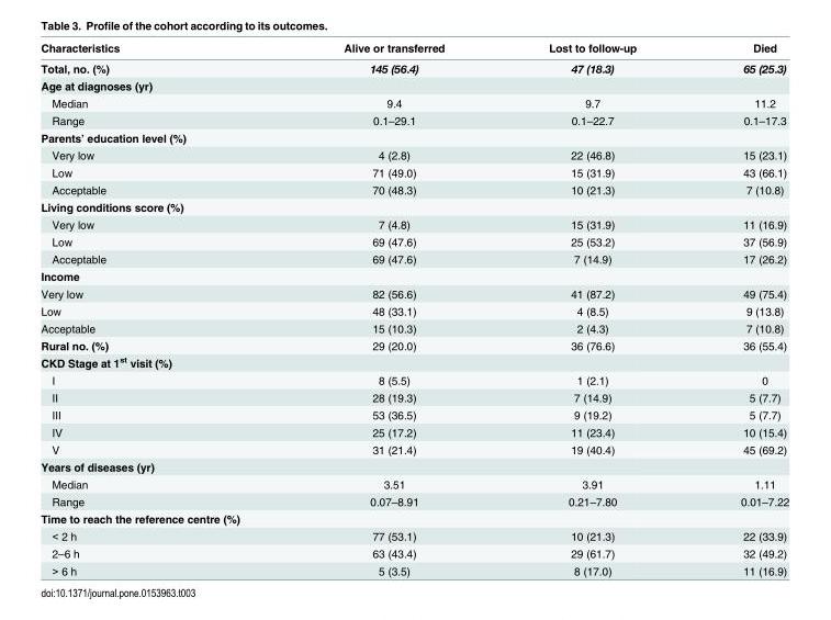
<table><thead><tr><td>Characteristics</td><td>Alive or transferred</td><td>Lost to follow-up</td><td>Died</td></tr></thead><tbody><tr><td>Total, no. (%)</td><td>145 (56.4)</td><td>47 (18.3)</td><td>65 (25.3)</td></tr><tr><td colspan="4">Age at diagnoses (yr)</td></tr><tr><td>Median</td><td>9.4</td><td>9.7</td><td>11.2</td></tr><tr><td>Range</td><td>0.1–29.1</td><td>0.1–22.7</td><td>0.1–17.3</td></tr><tr><td colspan="4">Parents’ education level (%)</td></tr><tr><td>Very low</td><td>4 (2.8)</td><td>22 (46.8)</td><td>15 (23.1)</td></tr><tr><td>Low</td><td>71 (49.0)</td><td>15 (31.9)</td><td>43 (66.1)</td></tr><tr><td>Acceptable</td><td>70 (48.3)</td><td>10 (21.3)</td><td>7 (10.8)</td></tr><tr><td colspan="4">Living conditions score (%)</td></tr><tr><td>Very low</td><td>7 (4.8)</td><td>15 (31.9)</td><td>11 (16.9)</td></tr><tr><td>Low</td><td>69 (47.6)</td><td>25 (53.2)</td><td>37 (56.9)</td></tr><tr><td>Acceptable</td><td>69 (47.6)</td><td>7 (14.9)</td><td>17 (26.2)</td></tr><tr><td colspan="4">Income</td></tr><tr><td>Very low</td><td>82 (56.6)</td><td>41 (87.2)</td><td>49 (75.4)</td></tr><tr><td>Low</td><td>48 (33.1)</td><td>4 (8.5)</td><td>9 (13.8)</td></tr><tr><td>Acceptable</td><td>15 (10.3)</td><td>2 (4.3)</td><td>7 (10.8)</td></tr><tr><td>Rural no. (%)</td><td>29 (20.0)</td><td>36 (76.6)</td><td>36 (55.4)</td></tr><tr><td colspan="4">CKD Stage at 1<sup>st</sup> visit (%)</td></tr><tr><td>I</td><td>8 (5.5)</td><td>1 (2.1)</td><td>0</td></tr><tr><td>II</td><td>28 (19.3)</td><td>7 (14.9)</td><td>5 (7.7)</td></tr><tr><td>III</td><td>53 (36.5)</td><td>9 (19.2)</td><td>5 (7.7)</td></tr><tr><td>IV</td><td>25 (17.2)</td><td>11 (23.4)</td><td>10 (15.4)</td></tr><tr><td>V</td><td>31 (21.4)</td><td>19 (40.4)</td><td>45 (69.2)</td></tr><tr><td colspan="4">Years of diseases (yr)</td></tr><tr><td>Median</td><td>3.51</td><td>3.91</td><td>1.11</td></tr><tr><td>Range</td><td>0.07–8.91</td><td>0.21–7.80</td><td>0.01–7.22</td></tr><tr><td colspan="4">Time to reach the reference centre (%)</td></tr><tr><td>&lt; 2 h</td><td>77 (53.1)</td><td>10 (21.3)</td><td>22 (33.9)</td></tr><tr><td>2–6 h</td><td>63 (43.4)</td><td>29 (61.7)</td><td>32 (49.2)</td></tr><tr><td>&gt; 6 h</td><td>5 (3.5)</td><td>8 (17.0)</td><td>11 (16.9)</td></tr></tbody></table>